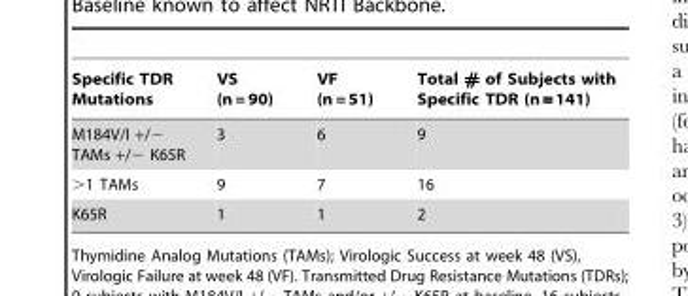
<table><thead><tr><td>Specific TDR Mutations</td><td>VS (n = 90)</td><td>VF (n = 51)</td><td>Total # of Subjects with Specific TDR (n == 141)</td></tr></thead><tbody><tr><td>M184V/I +/− TAMs +/− K65R</td><td>3</td><td>6</td><td>9</td></tr><tr><td>&gt;1 TAMs</td><td>9</td><td>7</td><td>16</td></tr><tr><td>K65R</td><td>1</td><td>1</td><td>2</td></tr></tbody></table>